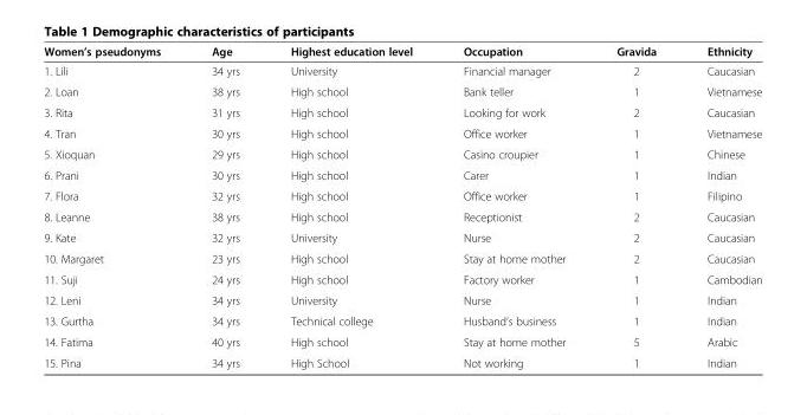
<table><thead><tr><td>Women’s pseudonyms</td><td>Age</td><td>Highest education level</td><td>Occupation</td><td>Gravida</td><td>Ethnicity</td></tr></thead><tbody><tr><td>1. Lili</td><td>34 yrs</td><td>University</td><td>Financial manager</td><td>2</td><td>Caucasian</td></tr><tr><td>2. Loan</td><td>38 yrs</td><td>High school</td><td>Bank teller</td><td>1</td><td>Vietnamese</td></tr><tr><td>3. Rita</td><td>31 yrs</td><td>High school</td><td>Looking for work</td><td>2</td><td>Caucasian</td></tr><tr><td>4. Tran</td><td>30 yrs</td><td>High school</td><td>Office worker</td><td>1</td><td>Vietnamese</td></tr><tr><td>5. Xioquan</td><td>29 yrs</td><td>High school</td><td>Casino croupier</td><td>1</td><td>Chinese</td></tr><tr><td>6. Prani</td><td>30 yrs</td><td>High school</td><td>Carer</td><td>1</td><td>Indian</td></tr><tr><td>7. Flora</td><td>32 yrs</td><td>High school</td><td>Office worker</td><td>1</td><td>Filipino</td></tr><tr><td>8. Leanne</td><td>38 yrs</td><td>High school</td><td>Receptionist</td><td>2</td><td>Caucasian</td></tr><tr><td>9. Kate</td><td>32 yrs</td><td>University</td><td>Nurse</td><td>2</td><td>Caucasian</td></tr><tr><td>10. Margaret</td><td>23 yrs</td><td>High school</td><td>Stay at home mother</td><td>2</td><td>Caucasian</td></tr><tr><td>11. Suji</td><td>24 yrs</td><td>High school</td><td>Factory worker</td><td>1</td><td>Cambodian</td></tr><tr><td>12. Leni</td><td>34 yrs</td><td>University</td><td>Nurse</td><td>1</td><td>Indian</td></tr><tr><td>13. Gurtha</td><td>34 yrs</td><td>Technical college</td><td>Husband’s business</td><td>1</td><td>Indian</td></tr><tr><td>14. Fatima</td><td>40 yrs</td><td>High school</td><td>Stay at home mother</td><td>5</td><td>Arabic</td></tr><tr><td>15. Pina</td><td>34 yrs</td><td>High School</td><td>Not working</td><td>1</td><td>Indian</td></tr></tbody></table>